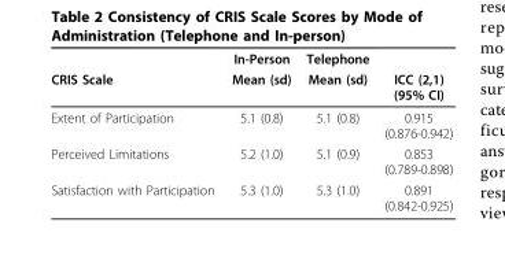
<table><thead><tr><td rowspan="2">CRIS Scale</td><td rowspan="2">In-Person Mean (sd)</td><td rowspan="2">Telephone Mean (sd)</td><td rowspan="2">ICC (2,1) (95% CI)</td></tr><tr></tr></thead><tbody><tr><td>Extent of Participation</td><td>5.1 (0.8)</td><td>5.1 (0.8)</td><td>0.915 (0.876-0.942)</td></tr><tr><td>Perceived Limitations</td><td>5.2 (1.0)</td><td>5.1 (0.9)</td><td>0.853 (0.789-0.898)</td></tr><tr><td>Satisfaction with Participation</td><td>5.3 (1.0)</td><td>5.3 (1.0)</td><td>0.891 (0.842-0.925)</td></tr></tbody></table>